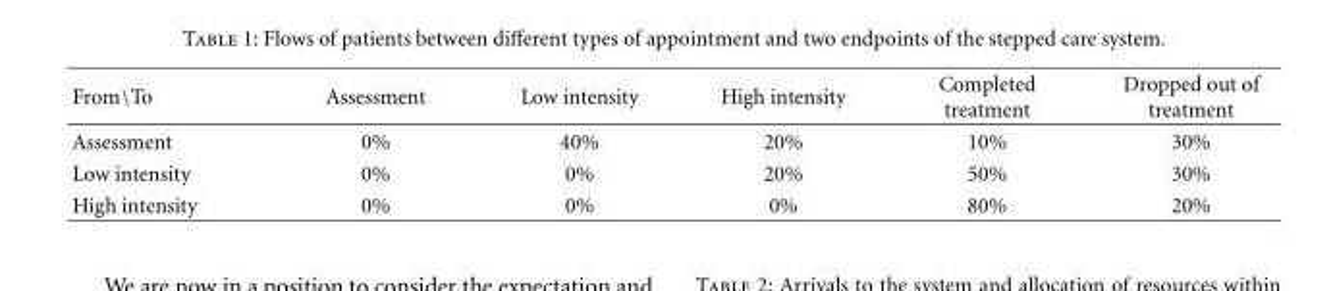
<table><thead><tr><td>From\To</td><td>Assessment</td><td>Low intensity</td><td>High intensity</td><td>Completed treatment</td><td>Dropped out of treatment</td></tr></thead><tbody><tr><td>Assessment</td><td>0%</td><td>40%</td><td>20%</td><td>10%</td><td>30%</td></tr><tr><td>Low intensity</td><td>0%</td><td>0%</td><td>20%</td><td>50%</td><td>30%</td></tr><tr><td>High intensity</td><td>0%</td><td>0%</td><td>0%</td><td>80%</td><td>20%</td></tr></tbody></table>